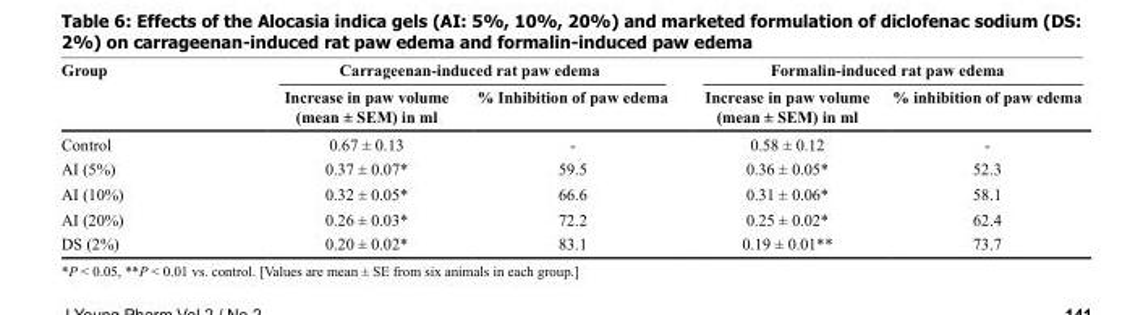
<table><thead><tr><td rowspan="2">Group</td><td colspan="2">Carrageenan-induced rat paw edema</td><td colspan="2">Formalin-induced rat paw edema</td></tr><tr><td>Increase in paw volume (mean ± SEM) in ml</td><td>% Inhibition of paw edema</td><td>Increase in paw volume (mean ± SEM) in ml</td><td>% inhibition of paw edema</td></tr></thead><tbody><tr><td>Control</td><td>0.67 ± 0.13</td><td>-</td><td>0.58 ± 0.12</td><td>-</td></tr><tr><td>AI (5%)</td><td>0.37 ± 0.07*</td><td>59.5</td><td>0.36 ± 0.05*</td><td>52.3</td></tr><tr><td>AI (10%)</td><td>0.32 ± 0.05*</td><td>66.6</td><td>0.31 ± 0.06*</td><td>58.1</td></tr><tr><td>AI (20%)</td><td>0.26 ± 0.03*</td><td>72.2</td><td>0.25 ± 0.02*</td><td>62.4</td></tr><tr><td>DS (2%)</td><td>0.20 ± 0.02*</td><td>83.1</td><td>0.19 ± 0.01**</td><td>73.7</td></tr></tbody></table>